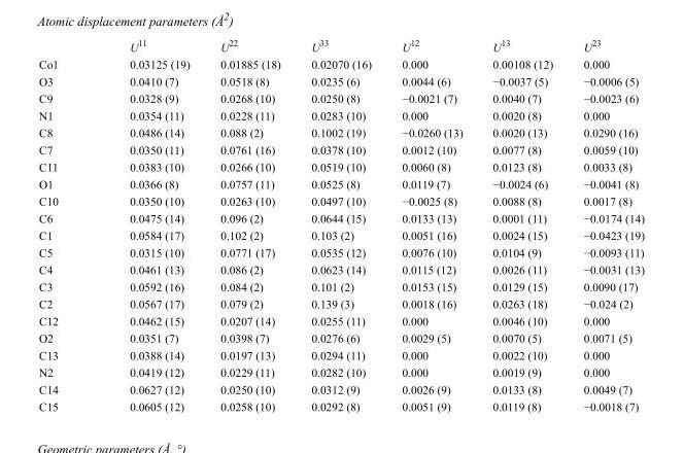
<table><thead><tr><td></td><td>U<sup>11</sup></td><td>U<sup>22</sup></td><td>U<sup>33</sup></td><td>U<sup>12</sup></td><td>U<sup>13</sup></td><td>U<sup>23</sup></td></tr></thead><tbody><tr><td>Co1</td><td>0.03125 (19)</td><td>0.01885 (18)</td><td>0.02070 (16)</td><td>0.000</td><td>0.00108 (12)</td><td>0.000</td></tr><tr><td>O3</td><td>0.0410 (7)</td><td>0.0518 (8)</td><td>0.0235 (6)</td><td>0.0044 (6)</td><td>−0.0037 (5)</td><td>−0.0006 (5)</td></tr><tr><td>C9</td><td>0.0328 (9)</td><td>0.0268 (10)</td><td>0.0250 (8)</td><td>−0.0021 (7)</td><td>0.0040 (7)</td><td>−0.0023 (6)</td></tr><tr><td>N1</td><td>0.0354 (11)</td><td>0.0228 (11)</td><td>0.0283 (10)</td><td>0.000</td><td>0.0020 (8)</td><td>0.000</td></tr><tr><td>C8</td><td>0.0486 (14)</td><td>0.088 (2)</td><td>0.1002 (19)</td><td>−0.0260 (13)</td><td>0.0020 (13)</td><td>0.0290 (16)</td></tr><tr><td>C7</td><td>0.0350 (11)</td><td>0.0761 (16)</td><td>0.0378 (10)</td><td>0.0012 (10)</td><td>0.0077 (8)</td><td>0.0059 (10)</td></tr><tr><td>C11</td><td>0.0383 (10)</td><td>0.0266 (10)</td><td>0.0519 (10)</td><td>0.0060 (8)</td><td>0.0123 (8)</td><td>0.0033 (8)</td></tr><tr><td>O1</td><td>0.0366 (8)</td><td>0.0757 (11)</td><td>0.0525 (8)</td><td>0.0119 (7)</td><td>−0.0024 (6)</td><td>−0.0041 (8)</td></tr><tr><td>C10</td><td>0.0350 (10)</td><td>0.0263 (10)</td><td>0.0497 (10)</td><td>−0.0025 (8)</td><td>0.0088 (8)</td><td>0.0017 (8)</td></tr><tr><td>C6</td><td>0.0475 (14)</td><td>0.096 (2)</td><td>0.0644 (15)</td><td>0.0133 (13)</td><td>0.0001 (11)</td><td>−0.0174 (14)</td></tr><tr><td>C1</td><td>0.0584 (17)</td><td>0.102 (2)</td><td>0.103 (2)</td><td>0.0051 (16)</td><td>0.0024 (15)</td><td>−0.0423 (19)</td></tr><tr><td>C5</td><td>0.0315 (10)</td><td>0.0771 (17)</td><td>0.0535 (12)</td><td>0.0076 (10)</td><td>0.0104 (9)</td><td>−0.0093 (11)</td></tr><tr><td>C4</td><td>0.0461 (13)</td><td>0.086 (2)</td><td>0.0623 (14)</td><td>0.0115 (12)</td><td>0.0026 (11)</td><td>−0.0031 (13)</td></tr><tr><td>C3</td><td>0.0592 (16)</td><td>0.084 (2)</td><td>0.101 (2)</td><td>0.0153 (15)</td><td>0.0129 (15)</td><td>0.0090 (17)</td></tr><tr><td>C2</td><td>0.0567 (17)</td><td>0.079 (2)</td><td>0.139 (3)</td><td>0.0018 (16)</td><td>0.0263 (18)</td><td>−0.024 (2)</td></tr><tr><td>C12</td><td>0.0462 (15)</td><td>0.0207 (14)</td><td>0.0255 (11)</td><td>0.000</td><td>0.0046 (10)</td><td>0.000</td></tr><tr><td>O2</td><td>0.0351 (7)</td><td>0.0398 (7)</td><td>0.0276 (6)</td><td>0.0029 (5)</td><td>0.0070 (5)</td><td>0.0071 (5)</td></tr><tr><td>C13</td><td>0.0388 (14)</td><td>0.0197 (13)</td><td>0.0294 (11)</td><td>0.000</td><td>0.0022 (10)</td><td>0.000</td></tr><tr><td>N2</td><td>0.0419 (12)</td><td>0.0229 (11)</td><td>0.0282 (10)</td><td>0.000</td><td>0.0019 (9)</td><td>0.000</td></tr><tr><td>C14</td><td>0.0627 (12)</td><td>0.0250 (10)</td><td>0.0312 (9)</td><td>0.0026 (9)</td><td>0.0133 (8)</td><td>0.0049 (7)</td></tr><tr><td>C15</td><td>0.0605 (12)</td><td>0.0258 (10)</td><td>0.0292 (8)</td><td>0.0051 (9)</td><td>0.0119 (8)</td><td>−0.0018 (7)</td></tr></tbody></table>